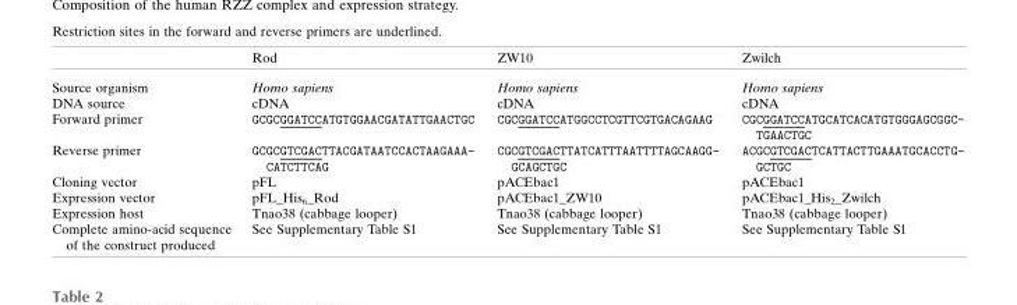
<table><thead><tr><td></td><td>Rod</td><td>ZW10</td><td>Zwilch</td></tr></thead><tbody><tr><td>Source organism</td><td>Homo sapiens</td><td>Homo sapiens</td><td>Homo sapiens</td></tr><tr><td>DNA source</td><td>cDNA</td><td>cDNA</td><td>cDNA</td></tr><tr><td>Forward primer</td><td>GCGCGGATCCATGTGGAACGATATTGAACTGC</td><td>CGCGGATCCATGGCCTCGTTCGTGACAGAAG</td><td>CGCGGATCCATGCATCACATGTGGGAGCGGC- TGAACTGC</td></tr><tr><td>Reverse primer</td><td>GCGCGTCGACTTACGATAATCCACTAAGAAA- CATCTTCAG</td><td>CGCGTCGACTTATCATTTAATTTTAGCAAGG- GCAGCTGC</td><td>ACGCGTCGACTCATTACTTGAAATGCACCTG- GCTGC</td></tr><tr><td>Cloning vector</td><td>pFL</td><td>pACEbac1</td><td>pACEbac1</td></tr><tr><td>Expression vector</td><td>pFL_His6_Rod</td><td>pACEbac1_ZW10</td><td>pACEbac1_His2_Zwilch</td></tr><tr><td>Expression host</td><td>Tnao38 (cabbage looper)</td><td>Tnao38 (cabbage looper)</td><td>Tnao38 (cabbage looper)</td></tr><tr><td>Complete amino-acid sequence of the construct produced</td><td>See Supplementary Table S1</td><td>See Supplementary Table S1</td><td>See Supplementary Table S1</td></tr></tbody></table>